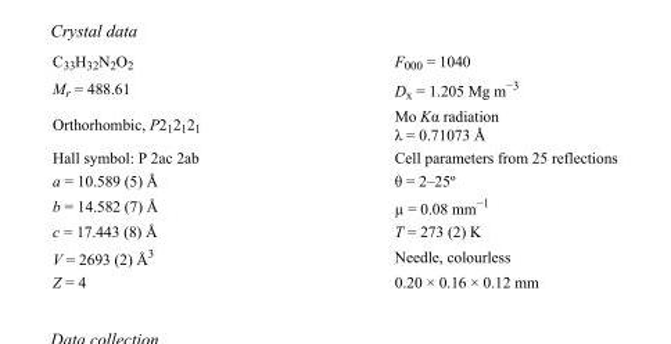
<table><tbody><tr><td>C<sub>33</sub>H<sub>32</sub>N<sub>2</sub>O<sub>2</sub></td><td>F<sub>000</sub> = 1040</td></tr><tr><td>M<sub>r</sub> = 488.61</td><td>D<sub>x</sub> = 1.205 Mg m<sup>−3</sup></td></tr><tr><td>Orthorhombic, P2<sub>1</sub>2<sub>1</sub>2<sub>1</sub></td><td>Mo Kα radiation λ = 0.71073 Å</td></tr><tr><td>Hall symbol: P 2ac 2ab</td><td>Cell parameters from 25 reflections</td></tr><tr><td>a = 10.589 (5) Å</td><td>θ = 2–25º</td></tr><tr><td>b = 14.582 (7) Å</td><td>µ = 0.08 mm<sup>−1</sup></td></tr><tr><td>c = 17.443 (8) Å</td><td>T = 273 (2) K</td></tr><tr><td>V = 2693 (2) Å<sup>3</sup></td><td>Needle, colourless</td></tr><tr><td>Z = 4</td><td>0.20 × 0.16 × 0.12 mm</td></tr></tbody></table>